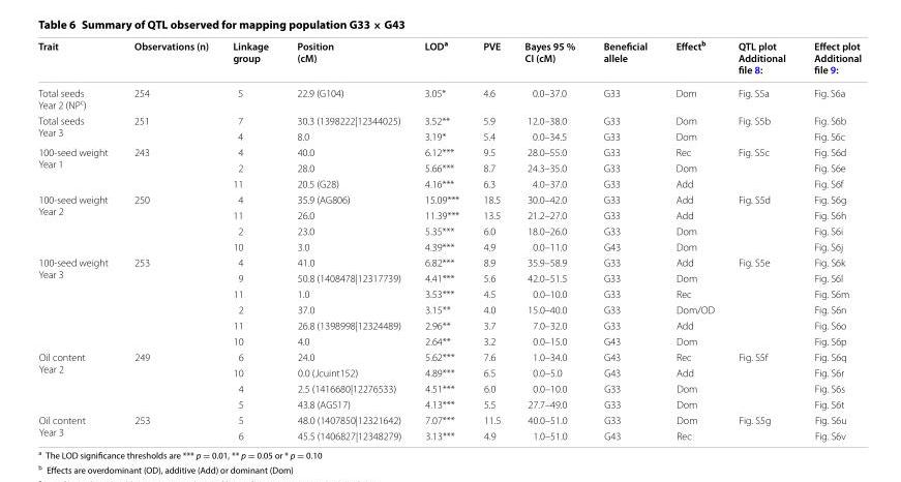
<table><thead><tr><td>Trait</td><td>Observations (n)</td><td>Linkage group</td><td>Position (cM)</td><td>LOD<sup>a</sup></td><td>PVE</td><td>Bayes 95 % CI (cM)</td><td>Beneficial allele</td><td>Effect<sup>b</sup></td><td>QTL plot Additional file 8:</td><td>Effect plot Additional file 9:</td></tr></thead><tbody><tr><td>Total seeds Year 2 (NP<sup>c</sup>)</td><td>254</td><td>5</td><td>22.9 (G104)</td><td>3.05*</td><td>4.6</td><td>0.0–37.0</td><td>G33</td><td>Dom</td><td>Fig. S5a</td><td>Fig. S6a</td></tr><tr><td rowspan="2">Total seeds Year 3</td><td rowspan="2">251</td><td>7</td><td>30.3 (1398222|12344025)</td><td>3.52**</td><td>5.9</td><td>12.0–38.0</td><td>G33</td><td>Dom</td><td rowspan="2">Fig. S5b</td><td>Fig. S6b</td></tr><tr><td>4</td><td>8.0</td><td>3.19*</td><td>5.4</td><td>0.0–34.5</td><td>G33</td><td>Dom</td><td>Fig. S6c</td></tr><tr><td rowspan="3">100-seed weight Year 1</td><td rowspan="3">243</td><td>4</td><td>40.0</td><td>6.12***</td><td>9.5</td><td>28.0–55.0</td><td>G33</td><td>Rec</td><td rowspan="3">Fig. S5c</td><td>Fig. S6d</td></tr><tr><td>2</td><td>28.0</td><td>5.66***</td><td>8.7</td><td>24.3–35.0</td><td>G33</td><td>Dom</td><td>Fig. S6e</td></tr><tr><td>11</td><td>20.5 (G28)</td><td>4.16***</td><td>6.3</td><td>4.0–37.0</td><td>G33</td><td>Add</td><td>Fig. S6f</td></tr><tr><td rowspan="4">100-seed weight Year 2</td><td rowspan="4">250</td><td>4</td><td>35.9 (AG806)</td><td>15.09***</td><td>18.5</td><td>30.0–42.0</td><td>G33</td><td>Add</td><td rowspan="4">Fig. S5d</td><td>Fig. S6g</td></tr><tr><td>11</td><td>26.0</td><td>11.39***</td><td>13.5</td><td>21.2–27.0</td><td>G33</td><td>Add</td><td>Fig. S6h</td></tr><tr><td>2</td><td>23.0</td><td>5.35***</td><td>6.0</td><td>18.0–26.0</td><td>G33</td><td>Dom</td><td>Fig. S6i</td></tr><tr><td>10</td><td>3.0</td><td>4.39***</td><td>4.9</td><td>0.0–11.0</td><td>G43</td><td>Dom</td><td>Fig. S6j</td></tr><tr><td rowspan="6">100-seed weight Year 3</td><td rowspan="6">253</td><td>4</td><td>41.0</td><td>6.82***</td><td>8.9</td><td>35.9–58.9</td><td>G33</td><td>Add</td><td rowspan="6">Fig. S5e</td><td>Fig. S6k</td></tr><tr><td>9</td><td>50.8 (1408478|12317739)</td><td>4.41***</td><td>5.6</td><td>42.0–51.5</td><td>G33</td><td>Dom</td><td>Fig. S6l</td></tr><tr><td>11</td><td>1.0</td><td>3.53***</td><td>4.5</td><td>0.0–10.0</td><td>G33</td><td>Rec</td><td>Fig. S6m</td></tr><tr><td>2</td><td>37.0</td><td>3.15**</td><td>4.0</td><td>15.0–40.0</td><td>G33</td><td>Dom/OD</td><td>Fig. S6n</td></tr><tr><td>11</td><td>26.8 (1398998|12324489)</td><td>2.96**</td><td>3.7</td><td>7.0–32.0</td><td>G33</td><td>Add</td><td>Fig. S6o</td></tr><tr><td>10</td><td>4.0</td><td>2.64**</td><td>3.2</td><td>0.0–15.0</td><td>G43</td><td>Dom</td><td>Fig. S6p</td></tr><tr><td rowspan="4">Oil content Year 2</td><td rowspan="4">249</td><td>6</td><td>24.0</td><td>5.62***</td><td>7.6</td><td>1.0–34.0</td><td>G43</td><td>Rec</td><td rowspan="4">Fig. S5f</td><td>Fig. S6q</td></tr><tr><td>10</td><td>0.0 (Jcuint152)</td><td>4.89***</td><td>6.5</td><td>0.0–5.0</td><td>G43</td><td>Add</td><td>Fig. S6r</td></tr><tr><td>4</td><td>2.5 (1416680|12276533)</td><td>4.51***</td><td>6.0</td><td>0.0–10.0</td><td>G33</td><td>Dom</td><td>Fig. S6s</td></tr><tr><td>5</td><td>43.8 (AG517)</td><td>4.13***</td><td>5.5</td><td>27.7–49.0</td><td>G33</td><td>Dom</td><td>Fig. S6t</td></tr><tr><td rowspan="2">Oil content Year 3</td><td rowspan="2">253</td><td>5</td><td>48.0 (1407850|12321642)</td><td>7.07***</td><td>11.5</td><td>40.0–51.0</td><td>G33</td><td>Dom</td><td rowspan="2">Fig. S5g</td><td>Fig. S6u</td></tr><tr><td>6</td><td>45.5 (1406827|12348279)</td><td>3.13***</td><td>4.9</td><td>1.0–51.0</td><td>G43</td><td>Rec</td><td>Fig. S6v</td></tr></tbody></table>